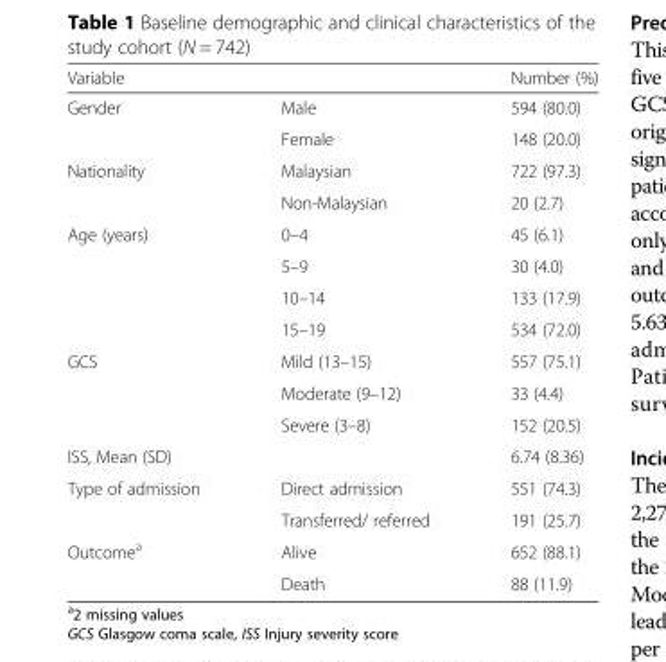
<table><thead><tr><td>Variable</td><td></td><td>Number (%)</td></tr></thead><tbody><tr><td rowspan="2">Gender</td><td>Male</td><td>594 (80.0)</td></tr><tr><td>Female</td><td>148 (20.0)</td></tr><tr><td rowspan="2">Nationality</td><td>Malaysian</td><td>722 (97.3)</td></tr><tr><td>Non-Malaysian</td><td>20 (2.7)</td></tr><tr><td rowspan="4">Age (years)</td><td>0–4</td><td>45 (6.1)</td></tr><tr><td>5–9</td><td>30 (4.0)</td></tr><tr><td>10–14</td><td>133 (17.9)</td></tr><tr><td>15–19</td><td>534 (72.0)</td></tr><tr><td rowspan="3">GCS</td><td>Mild (13–15)</td><td>557 (75.1)</td></tr><tr><td>Moderate (9–12)</td><td>33 (4.4)</td></tr><tr><td>Severe (3–8)</td><td>152 (20.5)</td></tr><tr><td>ISS, Mean (SD)</td><td></td><td>6.74 (8.36)</td></tr><tr><td rowspan="2">Type of admission</td><td>Direct admission</td><td>551 (74.3)</td></tr><tr><td>Transferred/ referred</td><td>191 (25.7)</td></tr><tr><td rowspan="2">Outcome<sup>a</sup></td><td>Alive</td><td>652 (88.1)</td></tr><tr><td>Death</td><td>88 (11.9)</td></tr></tbody></table>